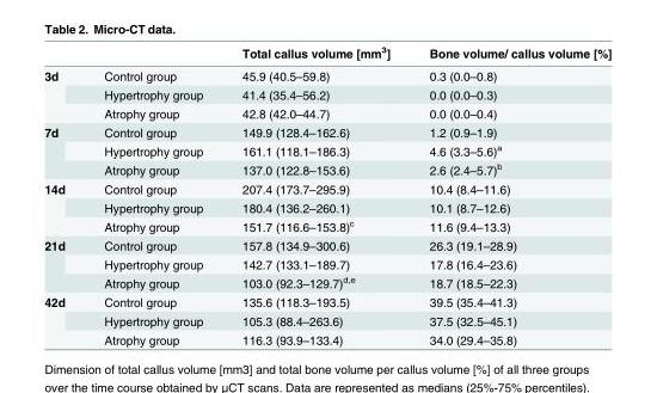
<table><thead><tr><td></td><td></td><td>Total callus volume [mm<sup>3</sup>]</td><td>Bone volume/ callus volume [%]</td></tr></thead><tbody><tr><td rowspan="3">3d</td><td>Control group</td><td>45.9 (40.5–59.8)</td><td>0.3 (0.0–0.8)</td></tr><tr><td>Hypertrophy group</td><td>41.4 (35.4–56.2)</td><td>0.0 (0.0–0.3)</td></tr><tr><td>Atrophy group</td><td>42.8 (42.0–44.7)</td><td>0.0 (0.0–0.4)</td></tr><tr><td rowspan="3">7d</td><td>Control group</td><td>149.9 (128.4–162.6)</td><td>1.2 (0.9–1.9)</td></tr><tr><td>Hypertrophy group</td><td>161.1 (118.1–186.3)</td><td>4.6 (3.3–5.6)<sup>a</sup></td></tr><tr><td>Atrophy group</td><td>137.0 (122.8–153.6)</td><td>2.6 (2.4–5.7)<sup>b</sup></td></tr><tr><td rowspan="3">14d</td><td>Control group</td><td>207.4 (173.7–295.9)</td><td>10.4 (8.4–11.6)</td></tr><tr><td>Hypertrophy group</td><td>180.4 (136.2–260.1)</td><td>10.1 (8.7–12.6)</td></tr><tr><td>Atrophy group</td><td>151.7 (116.6–153.8)<sup>c</sup></td><td>11.6 (9.4–13.3)</td></tr><tr><td rowspan="3">21d</td><td>Control group</td><td>157.8 (134.9–300.6)</td><td>26.3 (19.1–28.9)</td></tr><tr><td>Hypertrophy group</td><td>142.7 (133.1–189.7)</td><td>17.8 (16.4–23.6)</td></tr><tr><td>Atrophy group</td><td>103.0 (92.3–129.7)<sup>d,e</sup></td><td>18.7 (18.5–22.3)</td></tr><tr><td rowspan="3">42d</td><td>Control group</td><td>135.6 (118.3–193.5)</td><td>39.5 (35.4–41.3)</td></tr><tr><td>Hypertrophy group</td><td>105.3 (88.4–263.6)</td><td>37.5 (32.5–45.1)</td></tr><tr><td>Atrophy group</td><td>116.3 (93.9–133.4)</td><td>34.0 (29.4–35.8)</td></tr></tbody></table>